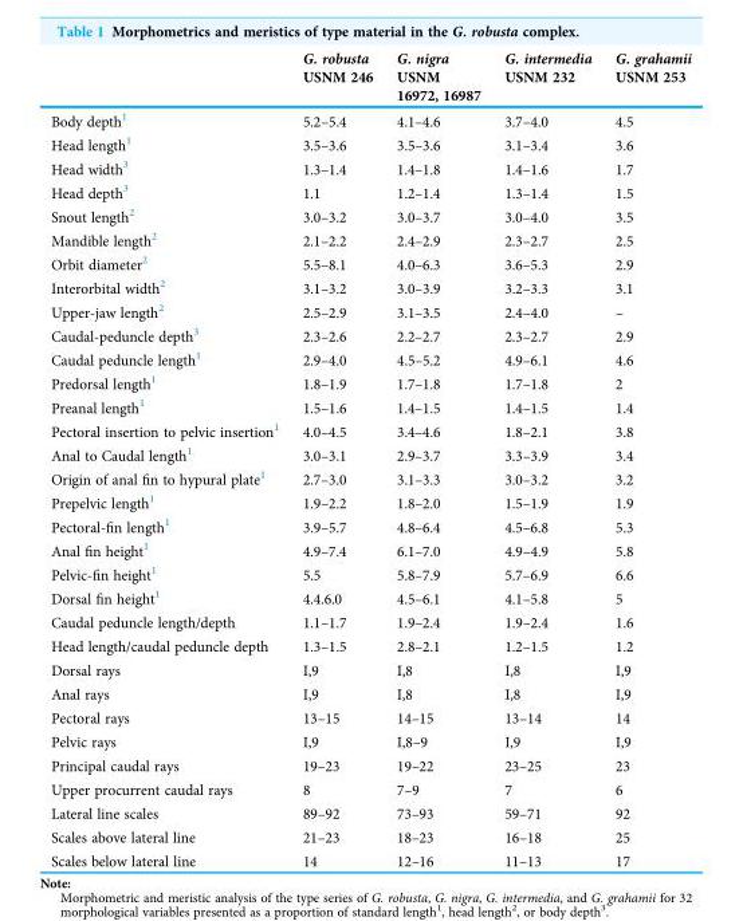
<table><thead><tr><td rowspan="2"></td><td rowspan="2">G. robusta USNM 246</td><td rowspan="2">G. nigra USNM 16972, 16987</td><td rowspan="2">G. intermedia USNM 232</td><td rowspan="2">G. grahamii USNM 253</td></tr><tr></tr></thead><tbody><tr><td>Body depth<sup>1</sup></td><td>5.2–5.4</td><td>4.1–4.6</td><td>3.7–4.0</td><td>4.5</td></tr><tr><td>Head length<sup>1</sup></td><td>3.5–3.6</td><td>3.5–3.6</td><td>3.1–3.4</td><td>3.6</td></tr><tr><td>Head width<sup>3</sup></td><td>1.3–1.4</td><td>1.4–1.8</td><td>1.4–1.6</td><td>1.7</td></tr><tr><td>Head depth<sup>3</sup></td><td>1.1</td><td>1.2–1.4</td><td>1.3–1.4</td><td>1.5</td></tr><tr><td>Snout length<sup>2</sup></td><td>3.0–3.2</td><td>3.0–3.7</td><td>3.0–4.0</td><td>3.5</td></tr><tr><td>Mandible length<sup>2</sup></td><td>2.1–2.2</td><td>2.4–2.9</td><td>2.3–2.7</td><td>2.5</td></tr><tr><td>Orbit diameter<sup>2</sup></td><td>5.5–8.1</td><td>4.0–6.3</td><td>3.6–5.3</td><td>2.9</td></tr><tr><td>Interorbital width<sup>2</sup></td><td>3.1–3.2</td><td>3.0–3.9</td><td>3.2–3.3</td><td>3.1</td></tr><tr><td>Upper-jaw length<sup>2</sup></td><td>2.5–2.9</td><td>3.1–3.5</td><td>2.4–4.0</td><td>–</td></tr><tr><td>Caudal-peduncle depth<sup>3</sup></td><td>2.3–2.6</td><td>2.2–2.7</td><td>2.3–2.7</td><td>2.9</td></tr><tr><td>Caudal peduncle length<sup>1</sup></td><td>2.9–4.0</td><td>4.5–5.2</td><td>4.9–6.1</td><td>4.6</td></tr><tr><td>Predorsal length<sup>1</sup></td><td>1.8–1.9</td><td>1.7–1.8</td><td>1.7–1.8</td><td>2</td></tr><tr><td>Preanal length<sup>1</sup></td><td>1.5–1.6</td><td>1.4–1.5</td><td>1.4–1.5</td><td>1.4</td></tr><tr><td>Pectoral insertion to pelvic insertion<sup>1</sup></td><td>4.0–4.5</td><td>3.4–4.6</td><td>1.8–2.1</td><td>3.8</td></tr><tr><td>Anal to Caudal length<sup>1</sup></td><td>3.0–3.1</td><td>2.9–3.7</td><td>3.3–3.9</td><td>3.4</td></tr><tr><td>Origin of anal fin to hypural plate<sup>1</sup></td><td>2.7–3.0</td><td>3.1–3.3</td><td>3.0–3.2</td><td>3.2</td></tr><tr><td>Prepelvic length<sup>1</sup></td><td>1.9–2.2</td><td>1.8–2.0</td><td>1.5–1.9</td><td>1.9</td></tr><tr><td>Pectoral-fin length<sup>1</sup></td><td>3.9–5.7</td><td>4.8–6.4</td><td>4.5–6.8</td><td>5.3</td></tr><tr><td>Anal fin height<sup>1</sup></td><td>4.9–7.4</td><td>6.1–7.0</td><td>4.9–4.9</td><td>5.8</td></tr><tr><td>Pelvic-fin height<sup>1</sup></td><td>5.5</td><td>5.8–7.9</td><td>5.7–6.9</td><td>6.6</td></tr><tr><td>Dorsal fin height<sup>1</sup></td><td>4.4.6.0</td><td>4.5–6.1</td><td>4.1–5.8</td><td>5</td></tr><tr><td>Caudal peduncle length/depth</td><td>1.1–1.7</td><td>1.9–2.4</td><td>1.9–2.4</td><td>1.6</td></tr><tr><td>Head length/caudal peduncle depth</td><td>1.3–1.5</td><td>2.8–2.1</td><td>1.2–1.5</td><td>1.2</td></tr><tr><td>Dorsal rays</td><td>I,9</td><td>I,8</td><td>I,8</td><td>I,9</td></tr><tr><td>Anal rays</td><td>I,9</td><td>I,8</td><td>I,8</td><td>I,9</td></tr><tr><td>Pectoral rays</td><td>13–15</td><td>14–15</td><td>13–14</td><td>14</td></tr><tr><td>Pelvic rays</td><td>I,9</td><td>I,8–9</td><td>I,9</td><td>I,9</td></tr><tr><td>Principal caudal rays</td><td>19–23</td><td>19–22</td><td>23–25</td><td>23</td></tr><tr><td>Upper procurrent caudal rays</td><td>8</td><td>7–9</td><td>7</td><td>6</td></tr><tr><td>Lateral line scales</td><td>89–92</td><td>73–93</td><td>59–71</td><td>92</td></tr><tr><td>Scales above lateral line</td><td>21–23</td><td>18–23</td><td>16–18</td><td>25</td></tr><tr><td>Scales below lateral line</td><td>14</td><td>12–16</td><td>11–13</td><td>17</td></tr></tbody></table>